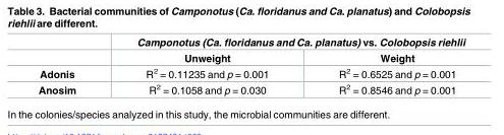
<table><thead><tr><td rowspan="2"></td><td colspan="2">Camponotus (Ca. floridanus and Ca. planatus) vs. Colobopsis riehlii</td></tr><tr><td>Unweight</td><td>Weight</td></tr></thead><tbody><tr><td>Adonis</td><td>R<sup>2</sup> = 0.11235 and p = 0.001</td><td>R<sup>2</sup> = 0.6525 and p = 0.001</td></tr><tr><td>Anosim</td><td>R<sup>2</sup> = 0.1058 and p = 0.030</td><td>R<sup>2</sup> = 0.8546 and p = 0.001</td></tr></tbody></table>